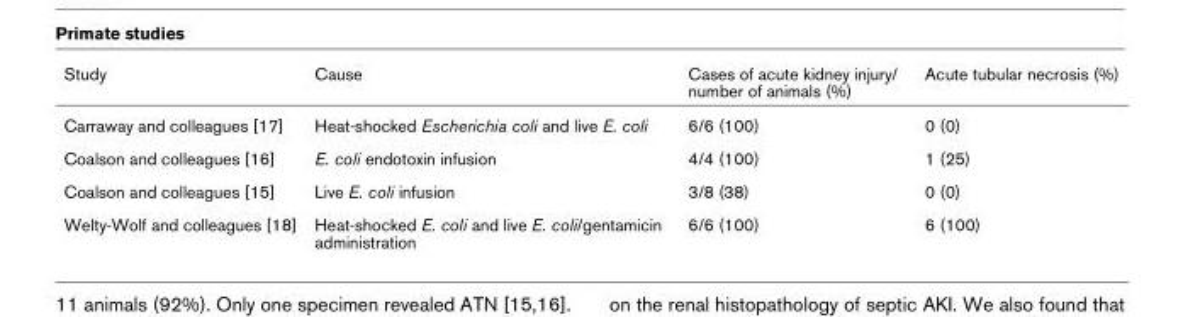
<table><thead><tr><td>Study</td><td>Cause</td><td>Cases of acute kidney injury/ number of animals (%)</td><td>Acute tubular necrosis (%)</td></tr></thead><tbody><tr><td>Carraway and colleagues [17]</td><td>Heat-shocked Escherichia coli and live E. coli</td><td>6/6 (100)</td><td>0 (0)</td></tr><tr><td>Coalson and colleagues [16]</td><td>E. coli endotoxin infusion</td><td>4/4 (100)</td><td>1 (25)</td></tr><tr><td>Coalson and colleagues [15]</td><td>Live E. coli infusion</td><td>3/8 (38)</td><td>0 (0)</td></tr><tr><td>Welty-Wolf and colleagues [18]</td><td>Heat-shocked E. coli and live E. coli/gentamicin administration</td><td>6/6 (100)</td><td>6 (100)</td></tr></tbody></table>